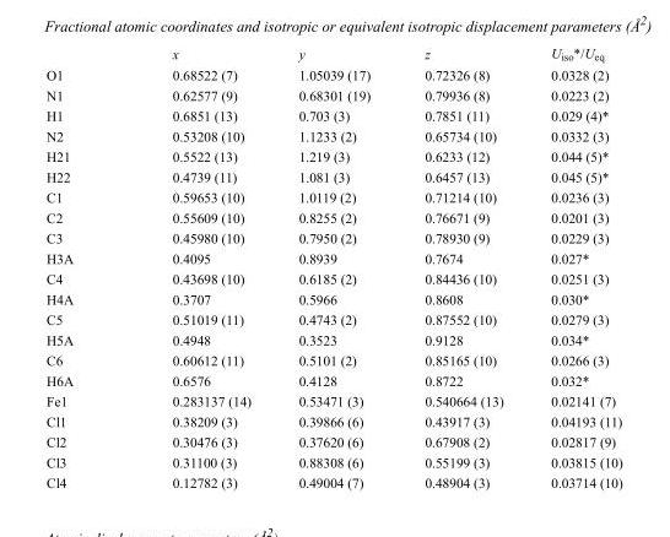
<table><thead><tr><td></td><td>x</td><td>y</td><td>z</td><td>U<sub>iso</sub>*/U<sub>eq</sub></td></tr></thead><tbody><tr><td>O1</td><td>0.68522 (7)</td><td>1.05039 (17)</td><td>0.72326 (8)</td><td>0.0328 (2)</td></tr><tr><td>N1</td><td>0.62577 (9)</td><td>0.68301 (19)</td><td>0.79936 (8)</td><td>0.0223 (2)</td></tr><tr><td>H1</td><td>0.6851 (13)</td><td>0.703 (3)</td><td>0.7851 (11)</td><td>0.029 (4)*</td></tr><tr><td>N2</td><td>0.53208 (10)</td><td>1.1233 (2)</td><td>0.65734 (10)</td><td>0.0332 (3)</td></tr><tr><td>H21</td><td>0.5522 (13)</td><td>1.219 (3)</td><td>0.6233 (12)</td><td>0.044 (5)*</td></tr><tr><td>H22</td><td>0.4739 (11)</td><td>1.081 (3)</td><td>0.6457 (13)</td><td>0.045 (5)*</td></tr><tr><td>C1</td><td>0.59653 (10)</td><td>1.0119 (2)</td><td>0.71214 (10)</td><td>0.0236 (3)</td></tr><tr><td>C2</td><td>0.55609 (10)</td><td>0.8255 (2)</td><td>0.76671 (9)</td><td>0.0201 (3)</td></tr><tr><td>C3</td><td>0.45980 (10)</td><td>0.7950 (2)</td><td>0.78930 (9)</td><td>0.0229 (3)</td></tr><tr><td>H3A</td><td>0.4095</td><td>0.8939</td><td>0.7674</td><td>0.027*</td></tr><tr><td>C4</td><td>0.43698 (10)</td><td>0.6185 (2)</td><td>0.84436 (10)</td><td>0.0251 (3)</td></tr><tr><td>H4A</td><td>0.3707</td><td>0.5966</td><td>0.8608</td><td>0.030*</td></tr><tr><td>C5</td><td>0.51019 (11)</td><td>0.4743 (2)</td><td>0.87552 (10)</td><td>0.0279 (3)</td></tr><tr><td>H5A</td><td>0.4948</td><td>0.3523</td><td>0.9128</td><td>0.034*</td></tr><tr><td>C6</td><td>0.60612 (11)</td><td>0.5101 (2)</td><td>0.85165 (10)</td><td>0.0266 (3)</td></tr><tr><td>H6A</td><td>0.6576</td><td>0.4128</td><td>0.8722</td><td>0.032*</td></tr><tr><td>Fe1</td><td>0.283137 (14)</td><td>0.53471 (3)</td><td>0.540664 (13)</td><td>0.02141 (7)</td></tr><tr><td>Cl1</td><td>0.38209 (3)</td><td>0.39866 (6)</td><td>0.43917 (3)</td><td>0.04193 (11)</td></tr><tr><td>Cl2</td><td>0.30476 (3)</td><td>0.37620 (6)</td><td>0.67908 (2)</td><td>0.02817 (9)</td></tr><tr><td>Cl3</td><td>0.31100 (3)</td><td>0.88308 (6)</td><td>0.55199 (3)</td><td>0.03815 (10)</td></tr><tr><td>Cl4</td><td>0.12782 (3)</td><td>0.49004 (7)</td><td>0.48904 (3)</td><td>0.03714 (10)</td></tr></tbody></table>